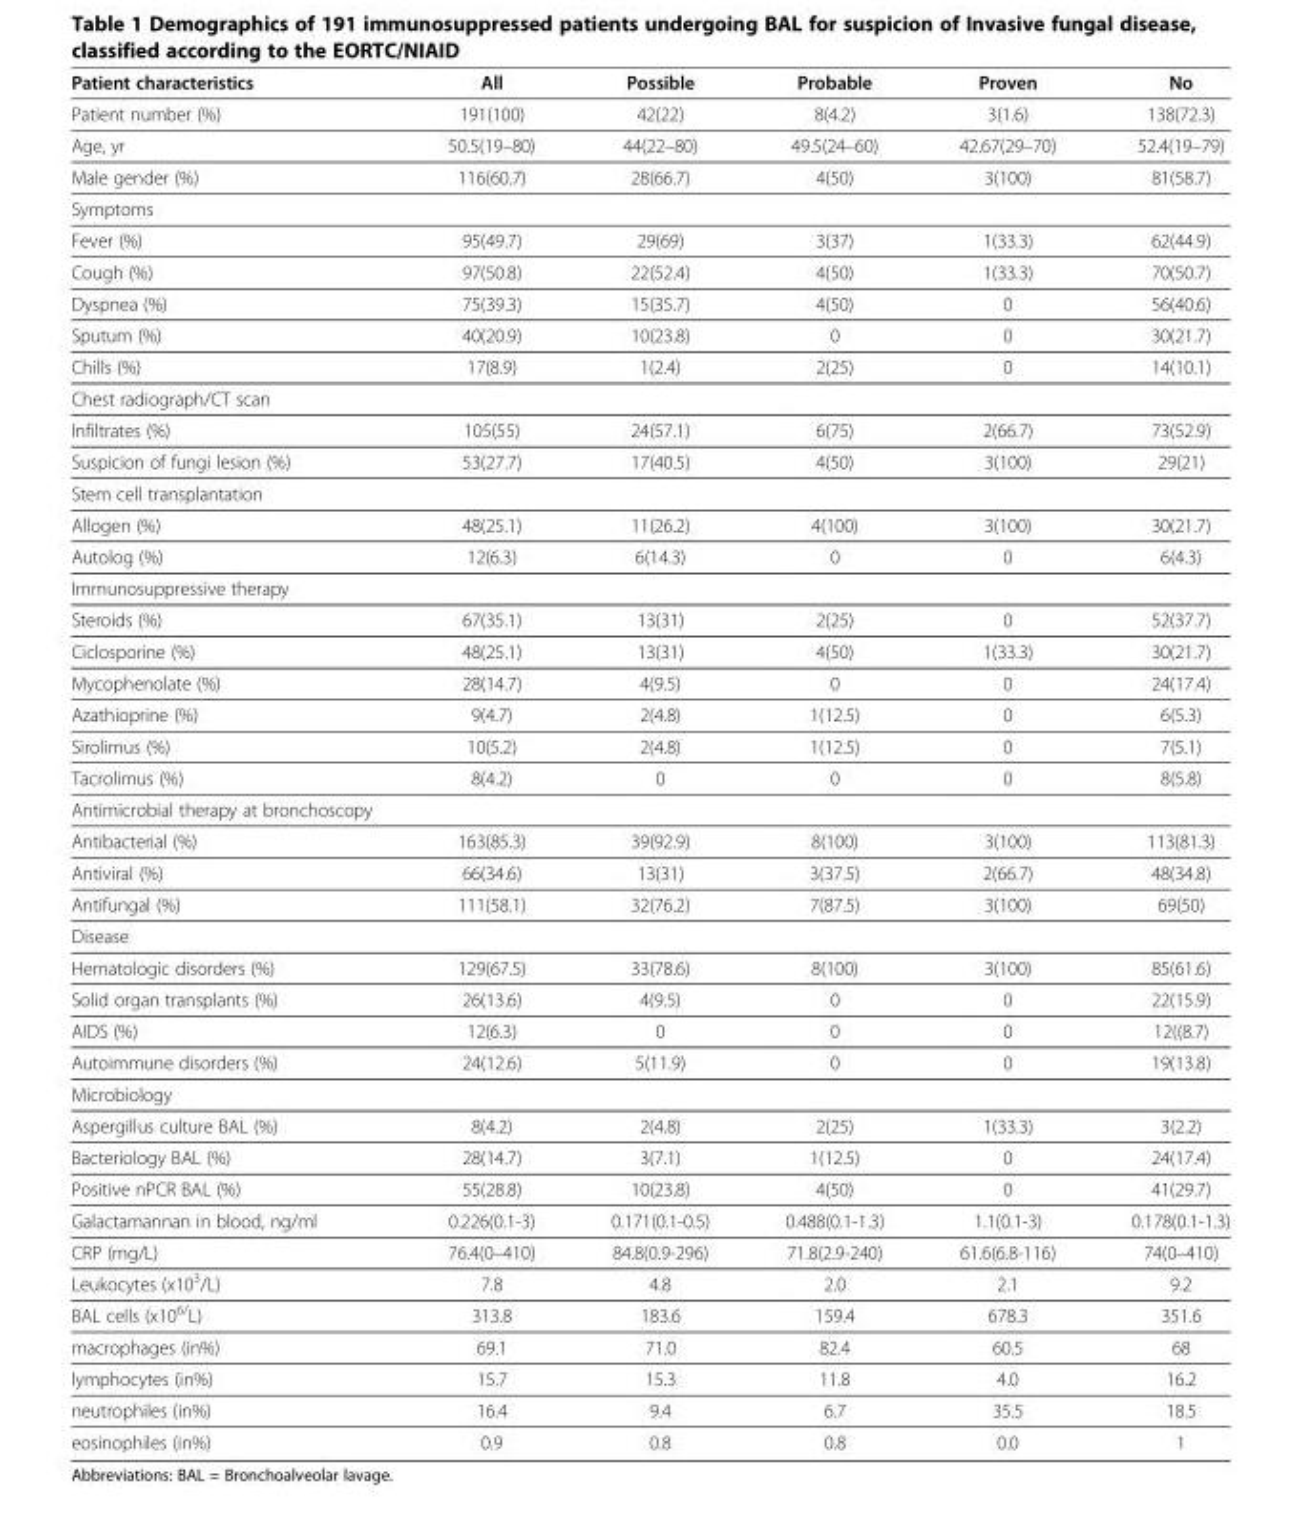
<table><thead><tr><td>Patient characteristics</td><td>All</td><td>Possible</td><td>Probable</td><td>Proven</td><td>No</td></tr></thead><tbody><tr><td>Patient number (%)</td><td>191(100)</td><td>42(22)</td><td>8(4.2)</td><td>3(1.6)</td><td>138(72.3)</td></tr><tr><td>Age, yr</td><td>50.5(19–80)</td><td>44(22–80)</td><td>49.5(24–60)</td><td>42.67(29–70)</td><td>52.4(19–79)</td></tr><tr><td>Male gender (%)</td><td>116(60.7)</td><td>28(66.7)</td><td>4(50)</td><td>3(100)</td><td>81(58.7)</td></tr><tr><td colspan="6">Symptoms</td></tr><tr><td>Fever (%)</td><td>95(49.7)</td><td>29(69)</td><td>3(37)</td><td>1(33.3)</td><td>62(44.9)</td></tr><tr><td>Cough (%)</td><td>97(50.8)</td><td>22(52.4)</td><td>4(50)</td><td>1(33.3)</td><td>70(50.7)</td></tr><tr><td>Dyspnea (%)</td><td>75(39.3)</td><td>15(35.7)</td><td>4(50)</td><td>0</td><td>56(40.6)</td></tr><tr><td>Sputum (%)</td><td>40(20.9)</td><td>10(23.8)</td><td>0</td><td>0</td><td>30(21.7)</td></tr><tr><td>Chills (%)</td><td>17(8.9)</td><td>1(2.4)</td><td>2(25)</td><td>0</td><td>14(10.1)</td></tr><tr><td colspan="6">Chest radiograph/CT scan</td></tr><tr><td>Infiltrates (%)</td><td>105(55)</td><td>24(57.1)</td><td>6(75)</td><td>2(66.7)</td><td>73(52.9)</td></tr><tr><td>Suspicion of fungi lesion (%)</td><td>53(27.7)</td><td>17(40.5)</td><td>4(50)</td><td>3(100)</td><td>29(21)</td></tr><tr><td colspan="6">Stem cell transplantation</td></tr><tr><td>Allogen (%)</td><td>48(25.1)</td><td>11(26.2)</td><td>4(100)</td><td>3(100)</td><td>30(21.7)</td></tr><tr><td>Autolog (%)</td><td>12(6.3)</td><td>6(14.3)</td><td>0</td><td>0</td><td>6(4.3)</td></tr><tr><td colspan="6">Immunosuppressive therapy</td></tr><tr><td>Steroids (%)</td><td>67(35.1)</td><td>13(31)</td><td>2(25)</td><td>0</td><td>52(37.7)</td></tr><tr><td>Ciclosporine (%)</td><td>48(25.1)</td><td>13(31)</td><td>4(50)</td><td>1(33.3)</td><td>30(21.7)</td></tr><tr><td>Mycophenolate (%)</td><td>28(14.7)</td><td>4(9.5)</td><td>0</td><td>0</td><td>24(17.4)</td></tr><tr><td>Azathioprine (%)</td><td>9(4.7)</td><td>2(4.8)</td><td>1(12.5)</td><td>0</td><td>6(5.3)</td></tr><tr><td>Sirolimus (%)</td><td>10(5.2)</td><td>2(4.8)</td><td>1(12.5)</td><td>0</td><td>7(5.1)</td></tr><tr><td>Tacrolimus (%)</td><td>8(4.2)</td><td>0</td><td>0</td><td>0</td><td>8(5.8)</td></tr><tr><td colspan="6">Antimicrobial therapy at bronchoscopy</td></tr><tr><td>Antibacterial (%)</td><td>163(85.3)</td><td>39(92.9)</td><td>8(100)</td><td>3(100)</td><td>113(81.3)</td></tr><tr><td>Antiviral (%)</td><td>66(34.6)</td><td>13(31)</td><td>3(37.5)</td><td>2(66.7)</td><td>48(34.8)</td></tr><tr><td>Antifungal (%)</td><td>111(58.1)</td><td>32(76.2)</td><td>7(87.5)</td><td>3(100)</td><td>69(50)</td></tr><tr><td colspan="6">Disease</td></tr><tr><td>Hematologic disorders (%)</td><td>129(67.5)</td><td>33(78.6)</td><td>8(100)</td><td>3(100)</td><td>85(61.6)</td></tr><tr><td>Solid organ transplants (%)</td><td>26(13.6)</td><td>4(9.5)</td><td>0</td><td>0</td><td>22(15.9)</td></tr><tr><td>AIDS (%)</td><td>12(6.3)</td><td>0</td><td>0</td><td>0</td><td>12((8.7)</td></tr><tr><td>Autoimmune disorders (%)</td><td>24(12.6)</td><td>5(11.9)</td><td>0</td><td>0</td><td>19(13.8)</td></tr><tr><td colspan="6">Microbiology</td></tr><tr><td>Aspergillus culture BAL (%)</td><td>8(4.2)</td><td>2(4.8)</td><td>2(25)</td><td>1(33.3)</td><td>3(2.2)</td></tr><tr><td>Bacteriology BAL (%)</td><td>28(14.7)</td><td>3(7.1)</td><td>1(12.5)</td><td>0</td><td>24(17.4)</td></tr><tr><td>Positive nPCR BAL (%)</td><td>55(28.8)</td><td>10(23.8)</td><td>4(50)</td><td>0</td><td>41(29.7)</td></tr><tr><td>Galactamannan in blood, ng/ml</td><td>0.226(0.1-3)</td><td>0.171(0.1-0.5)</td><td>0.488(0.1-1.3)</td><td>1.1(0.1-3)</td><td>0.178(0.1-1.3)</td></tr><tr><td>CRP (mg/L)</td><td>76.4(0–410)</td><td>84.8(0.9-296)</td><td>71.8(2.9-240)</td><td>61.6(6.8-116)</td><td>74(0–410)</td></tr><tr><td>Leukocytes (x10<sup>3</sup>/L)</td><td>7.8</td><td>4.8</td><td>2.0</td><td>2.1</td><td>9.2</td></tr><tr><td>BAL cells (x10<sup>6/</sup>L)</td><td>313.8</td><td>183.6</td><td>159.4</td><td>678.3</td><td>351.6</td></tr><tr><td>macrophages (in%)</td><td>69.1</td><td>71.0</td><td>82.4</td><td>60.5</td><td>68</td></tr><tr><td>lymphocytes (in%)</td><td>15.7</td><td>15.3</td><td>11.8</td><td>4.0</td><td>16.2</td></tr><tr><td>neutrophiles (in%)</td><td>16.4</td><td>9.4</td><td>6.7</td><td>35.5</td><td>18.5</td></tr><tr><td>eosinophiles (in%)</td><td>0.9</td><td>0.8</td><td>0.8</td><td>0.0</td><td>1</td></tr></tbody></table>